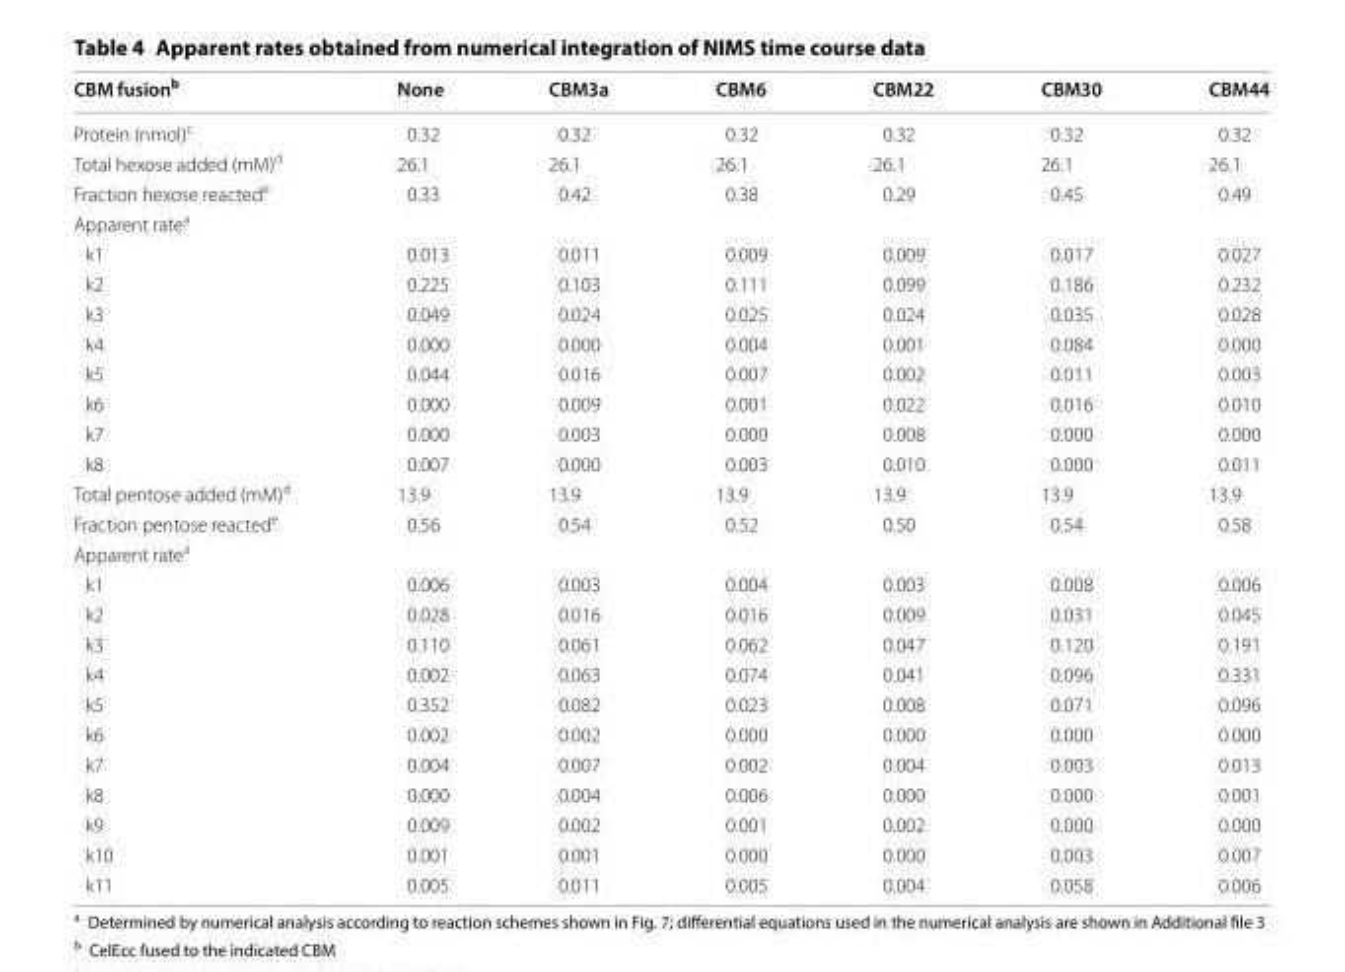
<table><thead><tr><td>CBM fusion<sup>b</sup></td><td>None</td><td>CBM3a</td><td>CBM6</td><td>CBM22</td><td>CBM30</td><td>CBM44</td></tr></thead><tbody><tr><td>Protein (nmol)<sup>c</sup></td><td>0.32</td><td>0.32</td><td>0.32</td><td>0.32</td><td>0.32</td><td>0.32</td></tr><tr><td>Total hexose added (mM)<sup>d</sup></td><td>26.1</td><td>26.1</td><td>26.1</td><td>26.1</td><td>26.1</td><td>26.1</td></tr><tr><td>Fraction hexose reacted<sup>e</sup></td><td>0.33</td><td>0.42</td><td>0.38</td><td>0.29</td><td>0.45</td><td>0.49</td></tr><tr><td colspan="7">Apparent rate<sup>a</sup></td></tr><tr><td>k1</td><td>0.013</td><td>0.011</td><td>0.009</td><td>0.009</td><td>0.017</td><td>0.027</td></tr><tr><td>k2</td><td>0.225</td><td>0.103</td><td>0.111</td><td>0.099</td><td>0.186</td><td>0.232</td></tr><tr><td>k3</td><td>0.049</td><td>0.024</td><td>0.025</td><td>0.024</td><td>0.035</td><td>0.028</td></tr><tr><td>k4</td><td>0.000</td><td>0.000</td><td>0.004</td><td>0.001</td><td>0.084</td><td>0.000</td></tr><tr><td>k5</td><td>0.044</td><td>0.016</td><td>0.007</td><td>0.002</td><td>0.011</td><td>0.003</td></tr><tr><td>k6</td><td>0.000</td><td>0.009</td><td>0.001</td><td>0.022</td><td>0.016</td><td>0.010</td></tr><tr><td>k7</td><td>0.000</td><td>0.003</td><td>0.000</td><td>0.008</td><td>0.000</td><td>0.000</td></tr><tr><td>k8</td><td>0.007</td><td>0.000</td><td>0.003</td><td>0.010</td><td>0.000</td><td>0.011</td></tr><tr><td>Total pentose added (mM)<sup>d</sup></td><td>13.9</td><td>13.9</td><td>13.9</td><td>13.9</td><td>13.9</td><td>13.9</td></tr><tr><td>Fraction pentose reacted<sup>e</sup></td><td>0.56</td><td>0.54</td><td>0.52</td><td>0.50</td><td>0.54</td><td>0.58</td></tr><tr><td colspan="7">Apparent rate<sup>a</sup></td></tr><tr><td>k1</td><td>0.006</td><td>0.003</td><td>0.004</td><td>0.003</td><td>0.008</td><td>0.006</td></tr><tr><td>k2</td><td>0.028</td><td>0.016</td><td>0.016</td><td>0.009</td><td>0.031</td><td>0.045</td></tr><tr><td>k3</td><td>0.110</td><td>0.061</td><td>0.062</td><td>0.047</td><td>0.120</td><td>0.191</td></tr><tr><td>k4</td><td>0.002</td><td>0.063</td><td>0.074</td><td>0.041</td><td>0.096</td><td>0.331</td></tr><tr><td>k5</td><td>0.352</td><td>0.082</td><td>0.023</td><td>0.008</td><td>0.071</td><td>0.096</td></tr><tr><td>k6</td><td>0.002</td><td>0.002</td><td>0.000</td><td>0.000</td><td>0.000</td><td>0.000</td></tr><tr><td>k7</td><td>0.004</td><td>0.007</td><td>0.002</td><td>0.004</td><td>0.003</td><td>0.013</td></tr><tr><td>k8</td><td>0.000</td><td>0.004</td><td>0.006</td><td>0.000</td><td>0.000</td><td>0.001</td></tr><tr><td>k9</td><td>0.009</td><td>0.002</td><td>0.001</td><td>0.002</td><td>0.000</td><td>0.000</td></tr><tr><td>k10</td><td>0.001</td><td>0.001</td><td>0.000</td><td>0.000</td><td>0.003</td><td>0.007</td></tr><tr><td>k11</td><td>0.005</td><td>0.011</td><td>0.005</td><td>0.004</td><td>0.058</td><td>0.006</td></tr></tbody></table>